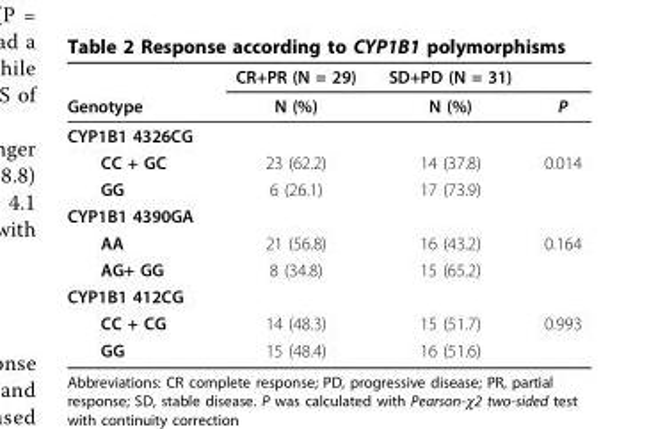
<table><thead><tr><td rowspan="2">Genotype</td><td rowspan="2">CR+PR (N = 29) N (%)</td><td rowspan="2">SD+PD (N = 31) N (%)</td><td rowspan="2">P</td></tr><tr></tr></thead><tbody><tr><td colspan="4">CYP1B1 4326CG</td></tr><tr><td>CC + GC</td><td>23 (62.2)</td><td>14 (37.8)</td><td>0.014</td></tr><tr><td>GG</td><td>6 (26.1)</td><td>17 (73.9)</td><td></td></tr><tr><td colspan="4">CYP1B1 4390GA</td></tr><tr><td>AA</td><td>21 (56.8)</td><td>16 (43.2)</td><td>0.164</td></tr><tr><td>AG+ GG</td><td>8 (34.8)</td><td>15 (65.2)</td><td></td></tr><tr><td colspan="4">CYP1B1 412CG</td></tr><tr><td>CC + CG</td><td>14 (48.3)</td><td>15 (51.7)</td><td>0.993</td></tr><tr><td>GG</td><td>15 (48.4)</td><td>16 (51.6)</td><td></td></tr></tbody></table>